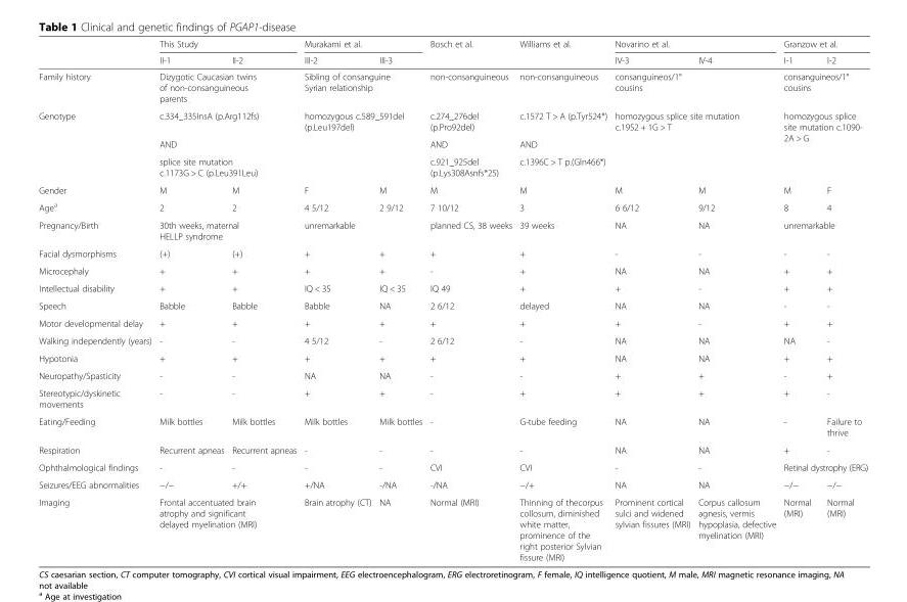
<table><thead><tr><td rowspan="2"></td><td colspan="2">This Study</td><td colspan="2">Murakami et al.</td><td rowspan="2">Bosch et al.</td><td rowspan="2">Williams et al.</td><td colspan="2">Novarino et al.</td><td colspan="2">Granzow et al.</td></tr><tr><td>II-1</td><td>II-2</td><td>III-2</td><td>III-3</td><td>IV-3</td><td>IV-4</td><td>I-1</td><td>I-2</td></tr></thead><tbody><tr><td>Family history</td><td colspan="2">Dizygotic Caucasian twins of non-consanguineous parents</td><td colspan="2">Sibling of consanguine Syrian relationship</td><td>non-consanguineous</td><td>non-consanguineous</td><td colspan="2">consanguineos/1° cousins</td><td colspan="2">consanguineos/1° cousins</td></tr><tr><td rowspan="3">Genotype</td><td colspan="2">c.334_335InsA (p.Arg112fs)</td><td rowspan="3" colspan="2">homozygous c.589_591del (p.Leu197del)</td><td>c.274_276del (p.Pro92del)</td><td>c.1572 T &gt; A (p.Tyr524*)</td><td rowspan="3" colspan="2">homozygous splice site mutation c.1952 + 1G &gt; T</td><td rowspan="3" colspan="2">homozygous splice site mutation c.1090- 2A &gt; G</td></tr><tr><td colspan="2">AND</td><td>AND</td><td>AND</td></tr><tr><td colspan="2">splice site mutation c.1173G &gt; C (p.Leu391Leu)</td><td>c.921_925del (p.Lys308Asnfs*25)</td><td>c.1396C &gt; T p.(Gln466*)</td></tr><tr><td>Gender</td><td>M</td><td>M</td><td>F</td><td>M</td><td>M</td><td>M</td><td>M</td><td>M</td><td>M</td><td>F</td></tr><tr><td>Age<sup>a</sup></td><td>2</td><td>2</td><td>4 5/12</td><td>2 9/12</td><td>7 10/12</td><td>3</td><td>6 6/12</td><td>9/12</td><td>8</td><td>4</td></tr><tr><td>Pregnancy/Birth</td><td colspan="2">30th weeks, maternal HELLP syndrome</td><td colspan="2">unremarkable</td><td>planned CS, 38 weeks</td><td>39 weeks</td><td>NA</td><td>NA</td><td colspan="2">unremarkable</td></tr><tr><td>Facial dysmorphisms</td><td>(+)</td><td>(+)</td><td>+</td><td>+</td><td>+</td><td>+</td><td>-</td><td>-</td><td>-</td><td>-</td></tr><tr><td>Microcephaly</td><td>+</td><td>+</td><td>+</td><td>+</td><td>-</td><td>+</td><td>NA</td><td>NA</td><td>+</td><td>+</td></tr><tr><td>Intellectual disability</td><td>+</td><td>+</td><td>IQ &lt; 35</td><td>IQ &lt; 35</td><td>IQ 49</td><td>+</td><td>+</td><td>-</td><td>+</td><td>+</td></tr><tr><td>Speech</td><td>Babble</td><td>Babble</td><td>Babble</td><td>NA</td><td>2 6/12</td><td>delayed</td><td>NA</td><td>NA</td><td>-</td><td>-</td></tr><tr><td>Motor developmental delay</td><td>+</td><td>+</td><td>+</td><td>+</td><td>+</td><td>+</td><td>+</td><td>-</td><td>+</td><td>+</td></tr><tr><td>Walking independently (years)</td><td>-</td><td>-</td><td>4 5/12</td><td>-</td><td>2 6/12</td><td>-</td><td>NA</td><td>NA</td><td>NA</td><td>-</td></tr><tr><td>Hypotonia</td><td>+</td><td>+</td><td>+</td><td>+</td><td>+</td><td>+</td><td>NA</td><td>NA</td><td>+</td><td>+</td></tr><tr><td>Neuropathy/Spasticity</td><td>-</td><td>-</td><td>NA</td><td>NA</td><td>-</td><td>-</td><td>+</td><td>+</td><td>-</td><td>+</td></tr><tr><td>Stereotypic/dyskinetic movements</td><td>-</td><td>-</td><td>+</td><td>+</td><td>-</td><td>+</td><td>+</td><td>+</td><td>+</td><td>-</td></tr><tr><td>Eating/Feeding</td><td>Milk bottles</td><td>Milk bottles</td><td>Milk bottles</td><td>Milk bottles</td><td>-</td><td>G-tube feeding</td><td>NA</td><td>NA</td><td>-</td><td>Failure to thrive</td></tr><tr><td>Respiration</td><td>Recurrent apneas</td><td>Recurrent apneas</td><td>-</td><td>-</td><td>-</td><td>-</td><td>NA</td><td>NA</td><td>+</td><td>-</td></tr><tr><td>Ophthalmological findings</td><td>-</td><td>-</td><td>-</td><td>-</td><td>CVI</td><td>CVI</td><td>-</td><td>-</td><td colspan="2">Retinal dystrophy (ERG)</td></tr><tr><td>Seizures/EEG abnormalities</td><td>−/−</td><td>+/+</td><td>+/NA</td><td>-/NA</td><td>-/NA</td><td>−/+</td><td>NA</td><td>NA</td><td>−/−</td><td>−/−</td></tr><tr><td>Imaging</td><td colspan="2">Frontal accentuated brain atrophy and significant delayed myelination (MRI)</td><td>Brain atrophy (CT)</td><td>NA</td><td>Normal (MRI)</td><td>Thinning of thecorpus collosum, diminished white matter, prominence of the right posterior Sylvian fissure (MRI)</td><td>Prominent cortical sulci and widened sylvian fissures (MRI)</td><td>Corpus callosum agnesis, vermis hypoplasia, defective myelination (MRI)</td><td>Normal (MRI)</td><td>Normal (MRI)</td></tr></tbody></table>